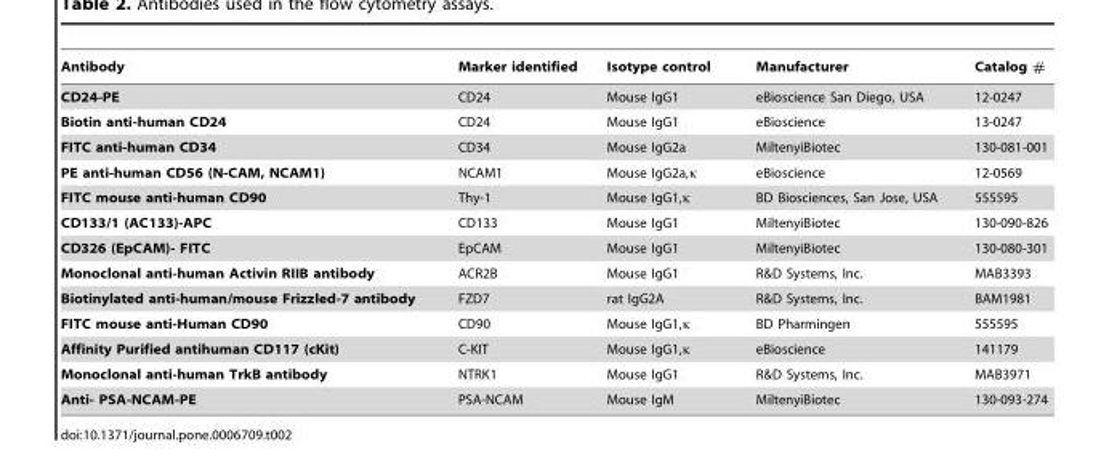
<table><thead><tr><td>Antibody</td><td>Marker identified</td><td>Isotype control</td><td>Manufacturer</td><td>Catalog #</td></tr></thead><tbody><tr><td>CD24-PE</td><td>CD24</td><td>Mouse IgG1</td><td>eBioscience San Diego, USA</td><td>12-0247</td></tr><tr><td>Biotin anti-human CD24</td><td>CD24</td><td>Mouse IgG1</td><td>eBioscience</td><td>13-0247</td></tr><tr><td>FITC anti-human CD34</td><td>CD34</td><td>Mouse IgG2a</td><td>MiltenyiBiotec</td><td>130-081-001</td></tr><tr><td>PE anti-human CD56 (N-CAM, NCAM1)</td><td>NCAM1</td><td>Mouse IgG2a,κ</td><td>eBioscience</td><td>12-0569</td></tr><tr><td>FITC mouse anti-human CD90</td><td>Thy-1</td><td>Mouse IgG1,κ</td><td>BD Biosciences, San Jose, USA</td><td>555595</td></tr><tr><td>CD133/1 (AC133)-APC</td><td>CD133</td><td>Mouse IgG1</td><td>MiltenyiBiotec</td><td>130-090-826</td></tr><tr><td>CD326 (EpCAM)- FITC</td><td>EpCAM</td><td>Mouse IgG1</td><td>MiltenyiBiotec</td><td>130-080-301</td></tr><tr><td>Monoclonal anti-human Activin RIIB antibody</td><td>ACR2B</td><td>Mouse IgG1</td><td>R&amp;D Systems, Inc.</td><td>MAB3393</td></tr><tr><td>Biotinylated anti-human/mouse Frizzled-7 antibody</td><td>FZD7</td><td>rat IgG2A</td><td>R&amp;D Systems, Inc.</td><td>BAM1981</td></tr><tr><td>FITC mouse anti-Human CD90</td><td>CD90</td><td>Mouse IgG1,κ</td><td>BD Pharmingen</td><td>555595</td></tr><tr><td>Affinity Purified antihuman CD117 (cKit)</td><td>C-KIT</td><td>Mouse IgG1,κ</td><td>eBioscience</td><td>141179</td></tr><tr><td>Monoclonal anti-human TrkB antibody</td><td>NTRK1</td><td>Mouse IgG1</td><td>R&amp;D Systems, Inc.</td><td>MAB3971</td></tr><tr><td>Anti- PSA-NCAM-PE</td><td>PSA-NCAM</td><td>Mouse IgM</td><td>MiltenyiBiotec</td><td>130-093-274</td></tr></tbody></table>